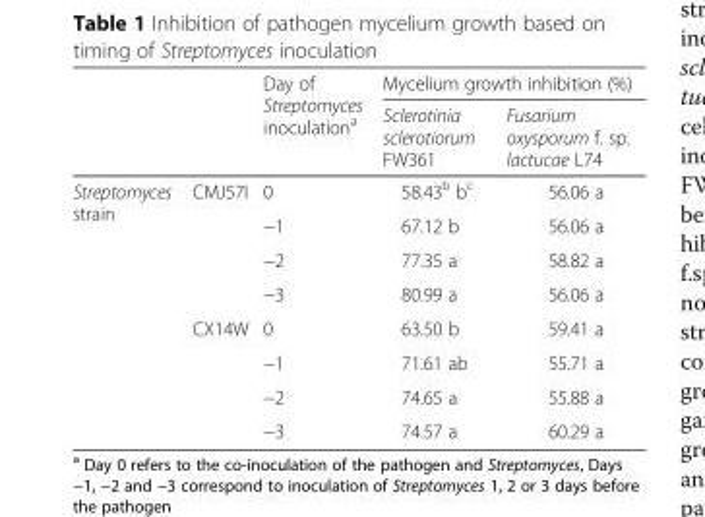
<table><thead><tr><td rowspan="2"></td><td rowspan="2"></td><td rowspan="2">Day of Streptomyces inoculation<sup>a</sup></td><td colspan="2">Mycelium growth inhibition (%)</td></tr><tr><td>Sclerotinia sclerotiorum FW361</td><td>Fusarium oxysporum f. sp. lactucae L74</td></tr></thead><tbody><tr><td rowspan="8">Streptomyces strain</td><td rowspan="4">CMJ57I</td><td>0</td><td>58.43<sup>b</sup> b<sup>c</sup></td><td>56.06 a</td></tr><tr><td>−1</td><td>67.12 b</td><td>56.06 a</td></tr><tr><td>−2</td><td>77.35 a</td><td>58.82 a</td></tr><tr><td>−3</td><td>80.99 a</td><td>56.06 a</td></tr><tr><td rowspan="4">CX14W</td><td>0</td><td>63.50 b</td><td>59.41 a</td></tr><tr><td>−1</td><td>71.61 ab</td><td>55.71 a</td></tr><tr><td>−2</td><td>74.65 a</td><td>55.88 a</td></tr><tr><td>−3</td><td>74.57 a</td><td>60.29 a</td></tr></tbody></table>